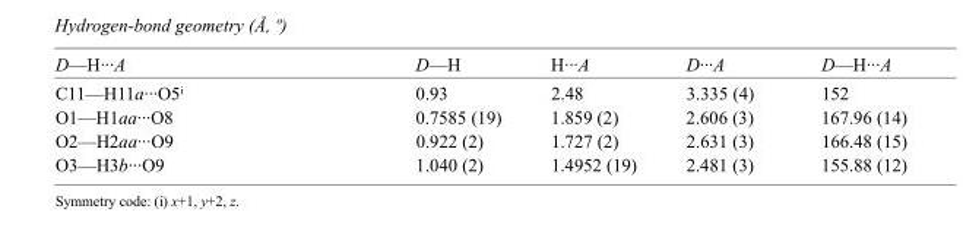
<table><tbody><tr><td>D—H···A</td><td>D—H</td><td>H···A</td><td>D···A</td><td>D—H···A</td></tr><tr><td>C11—H11a···O5<sup>i</sup></td><td>0.93</td><td>2.48</td><td>3.335 (4)</td><td>152</td></tr><tr><td>O1—H1aa···O8</td><td>0.7585 (19)</td><td>1.859 (2)</td><td>2.606 (3)</td><td>167.96 (14)</td></tr><tr><td>O2—H2aa···O9</td><td>0.922 (2)</td><td>1.727 (2)</td><td>2.631 (3)</td><td>166.48 (15)</td></tr><tr><td>O3—H3b···O9</td><td>1.040 (2)</td><td>1.4952 (19)</td><td>2.481 (3)</td><td>155.88 (12)</td></tr></tbody></table>